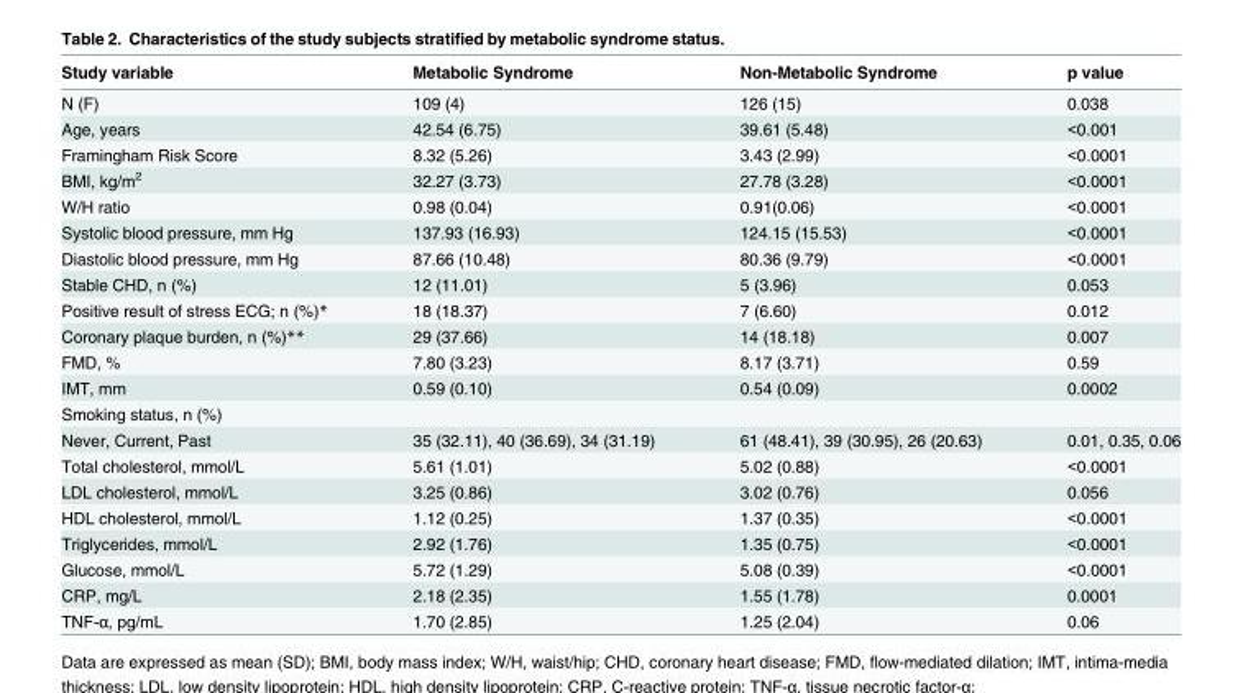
<table><thead><tr><td>Study variable</td><td>Metabolic Syndrome</td><td>Non-Metabolic Syndrome</td><td>p value</td></tr></thead><tbody><tr><td>N (F)</td><td>109 (4)</td><td>126 (15)</td><td>0.038</td></tr><tr><td>Age, years</td><td>42.54 (6.75)</td><td>39.61 (5.48)</td><td>&lt;0.001</td></tr><tr><td>Framingham Risk Score</td><td>8.32 (5.26)</td><td>3.43 (2.99)</td><td>&lt;0.0001</td></tr><tr><td>BMI, kg/m<sup>2</sup></td><td>32.27 (3.73)</td><td>27.78 (3.28)</td><td>&lt;0.0001</td></tr><tr><td>W/H ratio</td><td>0.98 (0.04)</td><td>0.91(0.06)</td><td>&lt;0.0001</td></tr><tr><td>Systolic blood pressure, mm Hg</td><td>137.93 (16.93)</td><td>124.15 (15.53)</td><td>&lt;0.0001</td></tr><tr><td>Diastolic blood pressure, mm Hg</td><td>87.66 (10.48)</td><td>80.36 (9.79)</td><td>&lt;0.0001</td></tr><tr><td>Stable CHD, n (%)</td><td>12 (11.01)</td><td>5 (3.96)</td><td>0.053</td></tr><tr><td>Positive result of stress ECG; n (%)*</td><td>18 (18.37)</td><td>7 (6.60)</td><td>0.012</td></tr><tr><td>Coronary plaque burden, n (%)**</td><td>29 (37.66)</td><td>14 (18.18)</td><td>0.007</td></tr><tr><td>FMD, %</td><td>7.80 (3.23)</td><td>8.17 (3.71)</td><td>0.59</td></tr><tr><td>IMT, mm</td><td>0.59 (0.10)</td><td>0.54 (0.09)</td><td>0.0002</td></tr><tr><td colspan="4">Smoking status, n (%)</td></tr><tr><td>Never, Current, Past</td><td>35 (32.11), 40 (36.69), 34 (31.19)</td><td>61 (48.41), 39 (30.95), 26 (20.63)</td><td>0.01, 0.35, 0.06</td></tr><tr><td>Total cholesterol, mmol/L</td><td>5.61 (1.01)</td><td>5.02 (0.88)</td><td>&lt;0.0001</td></tr><tr><td>LDL cholesterol, mmol/L</td><td>3.25 (0.86)</td><td>3.02 (0.76)</td><td>0.056</td></tr><tr><td>HDL cholesterol, mmol/L</td><td>1.12 (0.25)</td><td>1.37 (0.35)</td><td>&lt;0.0001</td></tr><tr><td>Triglycerides, mmol/L</td><td>2.92 (1.76)</td><td>1.35 (0.75)</td><td>&lt;0.0001</td></tr><tr><td>Glucose, mmol/L</td><td>5.72 (1.29)</td><td>5.08 (0.39)</td><td>&lt;0.0001</td></tr><tr><td>CRP, mg/L</td><td>2.18 (2.35)</td><td>1.55 (1.78)</td><td>0.0001</td></tr><tr><td>TNF-α, pg/mL</td><td>1.70 (2.85)</td><td>1.25 (2.04)</td><td>0.06</td></tr></tbody></table>